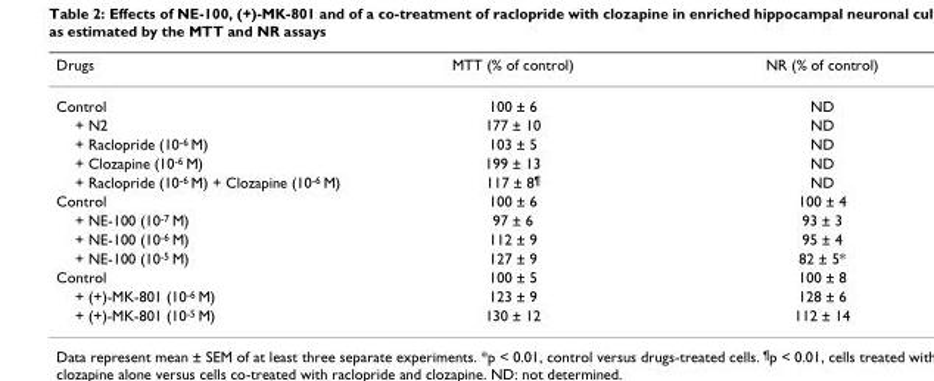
<table><thead><tr><td>Drugs</td><td>MTT (% of control)</td><td>NR (% of control)</td></tr></thead><tbody><tr><td>Control</td><td>100 ± 6</td><td>ND</td></tr><tr><td>+ N2</td><td>177 ± 10</td><td>ND</td></tr><tr><td>+ Raclopride (10-6 M)</td><td>103 ± 5</td><td>ND</td></tr><tr><td>+ Clozapine (10-6 M)</td><td>199 ± 13</td><td>ND</td></tr><tr><td>+ Raclopride (10-6 M) + Clozapine (10-6 M)</td><td>117 ± 8¶</td><td>ND</td></tr><tr><td>Control</td><td>100 ± 6</td><td>100 ± 4</td></tr><tr><td>+ NE-100 (10-7 M)</td><td>97 ± 6</td><td>93 ± 3</td></tr><tr><td>+ NE-100 (10-6 M)</td><td>112 ± 9</td><td>95 ± 4</td></tr><tr><td>+ NE-100 (10-5 M)</td><td>127 ± 9</td><td>82 ± 5*</td></tr><tr><td>Control</td><td>100 ± 5</td><td>100 ± 8</td></tr><tr><td>+ (+)-MK-801 (10-6 M)</td><td>123 ± 9</td><td>128 ± 6</td></tr><tr><td>+ (+)-MK-801 (10-5 M)</td><td>130 ± 12</td><td>112 ± 14</td></tr></tbody></table>